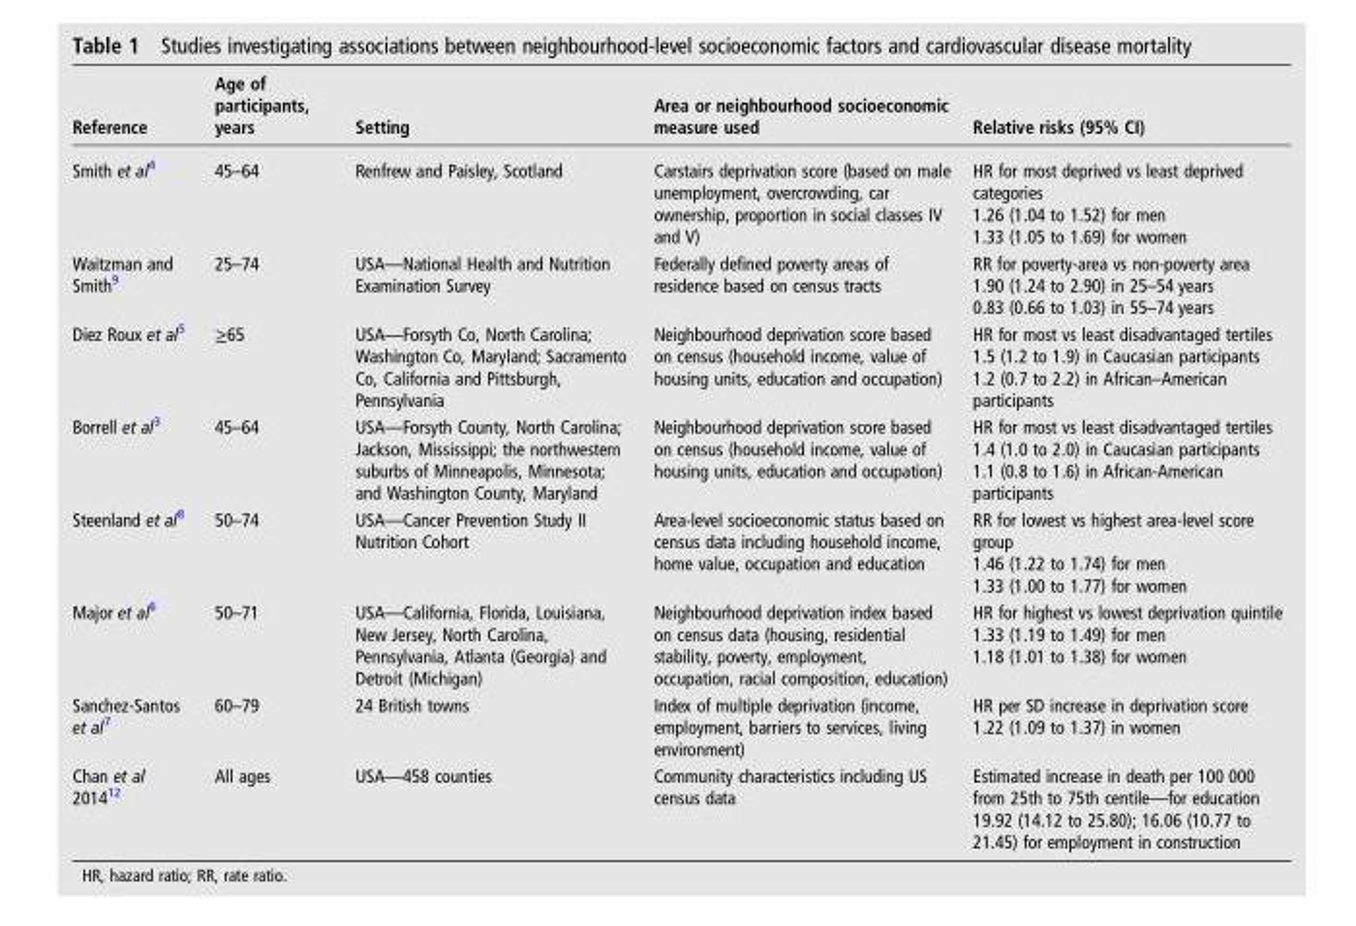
<table><thead><tr><td>Reference</td><td>Age of participants, years</td><td>Setting</td><td>Area or neighbourhood socioeconomic measure used</td><td>Relative risks (95% CI)</td></tr></thead><tbody><tr><td>Smith et al<sup>4</sup></td><td>45–64</td><td>Renfrew and Paisley, Scotland</td><td>Carstairs deprivation score (based on male unemployment, overcrowding, car ownership, proportion in social classes IV and V)</td><td>HR for most deprived vs least deprived categories 1.26 (1.04 to 1.52) for men 1.33 (1.05 to 1.69) for women</td></tr><tr><td>Waitzman and Smith<sup>9</sup></td><td>25–74</td><td>USA—National Health and Nutrition Examination Survey</td><td>Federally defined poverty areas of residence based on census tracts</td><td>RR for poverty-area vs non-poverty area 1.90 (1.24 to 2.90) in 25–54 years 0.83 (0.66 to 1.03) in 55–74 years</td></tr><tr><td>Diez Roux et al<sup>5</sup></td><td>≥65</td><td>USA—Forsyth Co, North Carolina; Washington Co, Maryland; Sacramento Co, California and Pittsburgh, Pennsylvania</td><td>Neighbourhood deprivation score based on census (household income, value of housing units, education and occupation)</td><td>HR for most vs least disadvantaged tertiles 1.5 (1.2 to 1.9) in Caucasian participants 1.2 (0.7 to 2.2) in African–American participants</td></tr><tr><td>Borrell et al<sup>3</sup></td><td>45–64</td><td>USA—Forsyth County, North Carolina; Jackson, Mississippi; the northwestern suburbs of Minneapolis, Minnesota; and Washington County, Maryland</td><td>Neighbourhood deprivation score based on census (household income, value of housing units, education and occupation)</td><td>HR for most vs least disadvantaged tertiles 1.4 (1.0 to 2.0) in Caucasian participants 1.1 (0.8 to 1.6) in African-American participants</td></tr><tr><td>Steenland et al<sup>8</sup></td><td>50–74</td><td>USA—Cancer Prevention Study II Nutrition Cohort</td><td>Area-level socioeconomic status based on census data including household income, home value, occupation and education</td><td>RR for lowest vs highest area-level score group 1.46 (1.22 to 1.74) for men 1.33 (1.00 to 1.77) for women</td></tr><tr><td>Major et al<sup>6</sup></td><td>50–71</td><td>USA—California, Florida, Louisiana, New Jersey, North Carolina, Pennsylvania, Atlanta (Georgia) and Detroit (Michigan)</td><td>Neighbourhood deprivation index based on census data (housing, residential stability, poverty, employment, occupation, racial composition, education)</td><td>HR for highest vs lowest deprivation quintile 1.33 (1.19 to 1.49) for men 1.18 (1.01 to 1.38) for women</td></tr><tr><td>Sanchez-Santos et al<sup>7</sup></td><td>60–79</td><td>24 British towns</td><td>Index of multiple deprivation (income, employment, barriers to services, living environment)</td><td>HR per SD increase in deprivation score 1.22 (1.09 to 1.37) in women</td></tr><tr><td>Chan et al 2014<sup>12</sup></td><td>All ages</td><td>USA—458 counties</td><td>Community characteristics including US census data</td><td>Estimated increase in death per 100 000 from 25th to 75th centile—for education 19.92 (14.12 to 25.80); 16.06 (10.77 to 21.45) for employment in construction</td></tr></tbody></table>